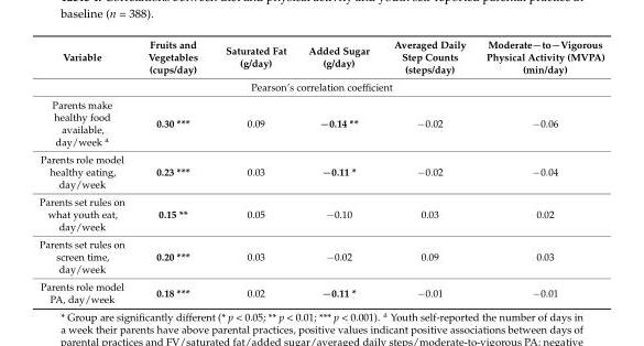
<table><thead><tr><td>Variable</td><td>Fruits and Vegetables (cups/day)</td><td>Saturated Fat (g/day)</td><td>Added Sugar (g/day)</td><td>Averaged Daily Step Counts (steps/day)</td><td>Moderate−to−Vigorous Physical Activity (MVPA) (min/day)</td></tr></thead><tbody><tr><td colspan="6">Pearson’s correlation coefficient</td></tr><tr><td>Parents make healthy food available, day/week <sup>a</sup></td><td>0.30 ***</td><td>0.09</td><td>−0.14 **</td><td>−0.02</td><td>−0.06</td></tr><tr><td>Parents role model healthy eating, day/week</td><td>0.23 ***</td><td>0.03</td><td>−0.11 *</td><td>−0.02</td><td>−0.04</td></tr><tr><td>Parents set rules on what youth eat, day/week</td><td>0.15 **</td><td>0.05</td><td>−0.10</td><td>0.03</td><td>0.02</td></tr><tr><td>Parents set rules on screen time, day/week</td><td>0.20 ***</td><td>0.03</td><td>−0.02</td><td>0.09</td><td>0.03</td></tr><tr><td>Parents role model PA, day/week</td><td>0.18 ***</td><td>0.02</td><td>−0.11 *</td><td>−0.01</td><td>−0.01</td></tr></tbody></table>